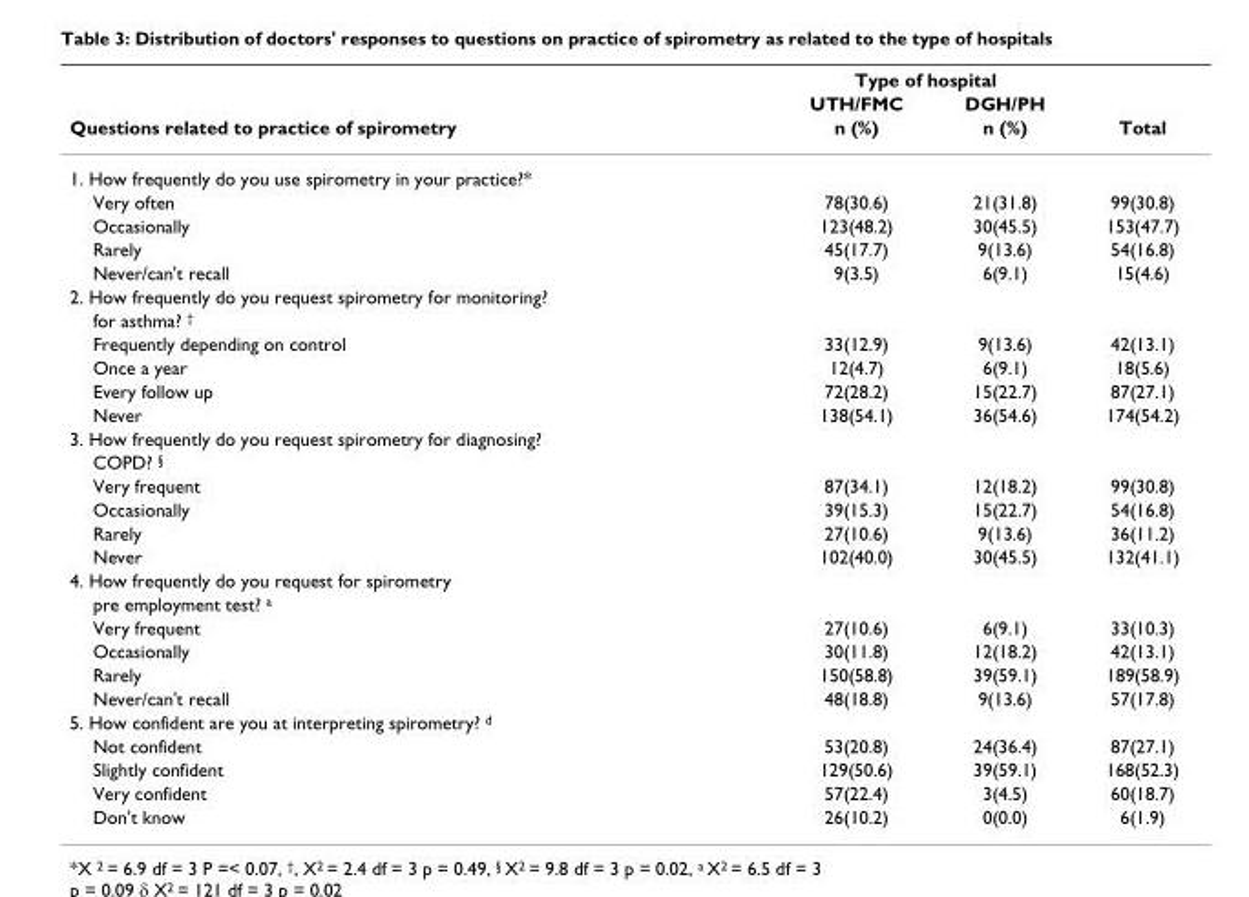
<table><thead><tr><td rowspan="3">Questions related to practice of spirometry</td><td colspan="2">Type of hospital</td><td rowspan="3">Total</td></tr><tr><td rowspan="2">UTH/FMC n (%)</td><td rowspan="2">DGH/PH n (%)</td></tr><tr></tr></thead><tbody><tr><td colspan="4">1. How frequently do you use spirometry in your practice?*</td></tr><tr><td>Very often</td><td>78(30.6)</td><td>21(31.8)</td><td>99(30.8)</td></tr><tr><td>Occasionally</td><td>123(48.2)</td><td>30(45.5)</td><td>153(47.7)</td></tr><tr><td>Rarely</td><td>45(17.7)</td><td>9(13.6)</td><td>54(16.8)</td></tr><tr><td>Never/can&#x27;t recall</td><td>9(3.5)</td><td>6(9.1)</td><td>15(4.6)</td></tr><tr><td colspan="4">2. How frequently do you request spirometry for monitoring?</td></tr><tr><td colspan="4">for asthma? <sup>†</sup></td></tr><tr><td>Frequently depending on control</td><td>33(12.9)</td><td>9(13.6)</td><td>42(13.1)</td></tr><tr><td>Once a year</td><td>12(4.7)</td><td>6(9.1)</td><td>18(5.6)</td></tr><tr><td>Every follow up</td><td>72(28.2)</td><td>15(22.7)</td><td>87(27.1)</td></tr><tr><td>Never</td><td>138(54.1)</td><td>36(54.6)</td><td>174(54.2)</td></tr><tr><td colspan="4">3. How frequently do you request spirometry for diagnosing?</td></tr><tr><td colspan="4">COPD? <sup>§</sup></td></tr><tr><td>Very frequent</td><td>87(34.1)</td><td>12(18.2)</td><td>99(30.8)</td></tr><tr><td>Occasionally</td><td>39(15.3)</td><td>15(22.7)</td><td>54(16.8)</td></tr><tr><td>Rarely</td><td>27(10.6)</td><td>9(13.6)</td><td>36(11.2)</td></tr><tr><td>Never</td><td>102(40.0)</td><td>30(45.5)</td><td>132(41.1)</td></tr><tr><td colspan="4">4. How frequently do you request for spirometry</td></tr><tr><td colspan="4">pre employment test? <sup>a</sup></td></tr><tr><td>Very frequent</td><td>27(10.6)</td><td>6(9.1)</td><td>33(10.3)</td></tr><tr><td>Occasionally</td><td>30(11.8)</td><td>12(18.2)</td><td>42(13.1)</td></tr><tr><td>Rarely</td><td>150(58.8)</td><td>39(59.1)</td><td>189(58.9)</td></tr><tr><td>Never/can&#x27;t recall</td><td>48(18.8)</td><td>9(13.6)</td><td>57(17.8)</td></tr><tr><td colspan="4">5. How confident are you at interpreting spirometry? <sup>d</sup></td></tr><tr><td>Not confident</td><td>53(20.8)</td><td>24(36.4)</td><td>87(27.1)</td></tr><tr><td>Slightly confident</td><td>129(50.6)</td><td>39(59.1)</td><td>168(52.3)</td></tr><tr><td>Very confident</td><td>57(22.4)</td><td>3(4.5)</td><td>60(18.7)</td></tr><tr><td>Don&#x27;t know</td><td>26(10.2)</td><td>0(0.0)</td><td>6(1.9)</td></tr></tbody></table>